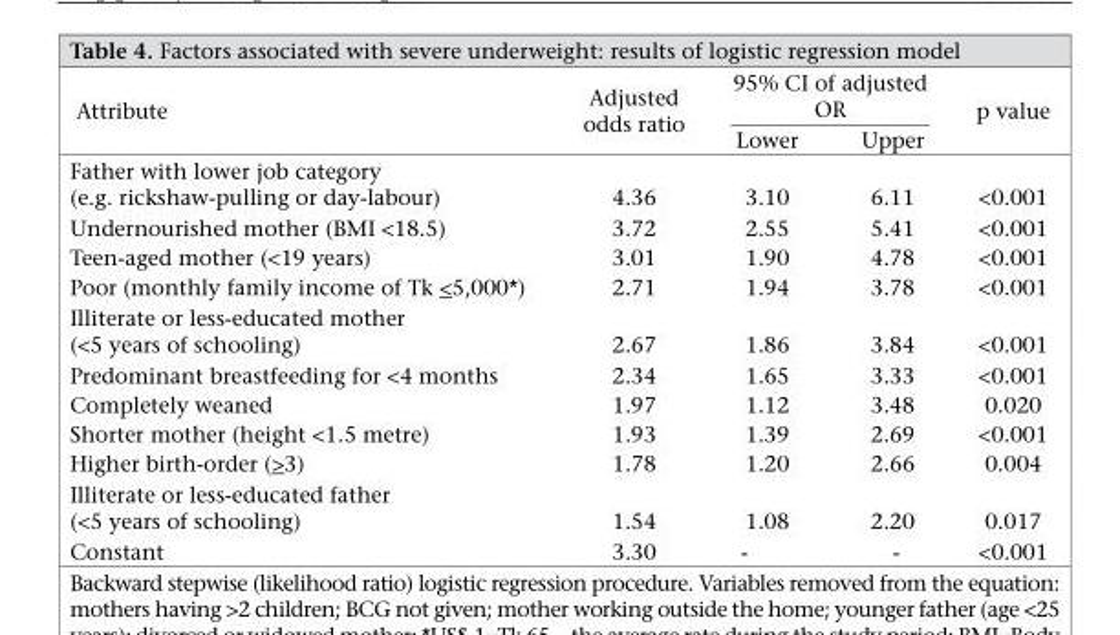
<table><thead><tr><td rowspan="2">Attribute</td><td rowspan="2">Adjusted odds ratio</td><td colspan="2">95% CI of adjusted OR</td><td rowspan="2">p value</td></tr><tr><td>Lower</td><td>Upper</td></tr></thead><tbody><tr><td>Father with lower job category (e.g. rickshaw-pulling or day-labour)</td><td>4.36</td><td>3.10</td><td>6.11</td><td>&lt;0.001</td></tr><tr><td>Undernourished mother (BMI &lt;18.5)</td><td>3.72</td><td>2.55</td><td>5.41</td><td>&lt;0.001</td></tr><tr><td>Teen-aged mother (&lt;19 years)</td><td>3.01</td><td>1.90</td><td>4.78</td><td>&lt;0.001</td></tr><tr><td>Poor (monthly family income of Tk &lt;5,000*)</td><td>2.71</td><td>1.94</td><td>3.78</td><td>&lt;0.001</td></tr><tr><td>Illiterate or less-educated mother (&lt;5 years of schooling)</td><td>2.67</td><td>1.86</td><td>3.84</td><td>&lt;0.001</td></tr><tr><td>Predominant breastfeeding for &lt;4 months</td><td>2.34</td><td>1.65</td><td>3.33</td><td>&lt;0.001</td></tr><tr><td>Completely weaned</td><td>1.97</td><td>1.12</td><td>3.48</td><td>0.020</td></tr><tr><td>Shorter mother (height &lt;1.5 metre)</td><td>1.93</td><td>1.39</td><td>2.69</td><td>&lt;0.001</td></tr><tr><td>Higher birth-order (&gt;3)</td><td>1.78</td><td>1.20</td><td>2.66</td><td>0.004</td></tr><tr><td>Illiterate or less-educated father (&lt;5 years of schooling)</td><td>1.54</td><td>1.08</td><td>2.20</td><td>0.017</td></tr><tr><td>Constant</td><td>3.30</td><td>-</td><td>-</td><td>&lt;0.001</td></tr></tbody></table>